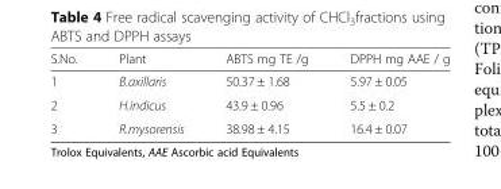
<table><thead><tr><td>S.No.</td><td>Plant</td><td>ABTS mg TE /g</td><td>DPPH mg AAE / g</td></tr></thead><tbody><tr><td>1</td><td>B.axillaris</td><td>50.37 ± 1.68</td><td>5.97 ± 0.05</td></tr><tr><td>2</td><td>H.indicus</td><td>43.9 ± 0.96</td><td>5.5 ± 0.2</td></tr><tr><td>3</td><td>R.mysorensis</td><td>38.98 ± 4.15</td><td>16.4 ± 0.07</td></tr></tbody></table>